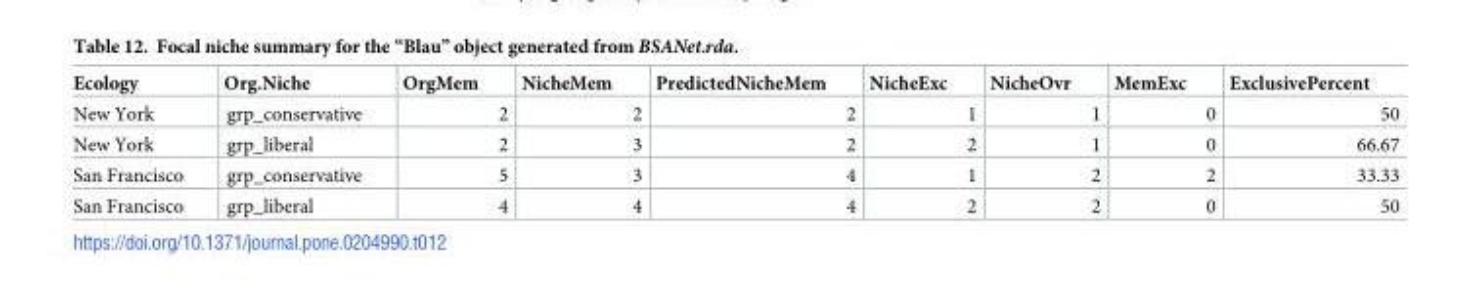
<table><thead><tr><td>Ecology</td><td>Org.Niche</td><td>OrgMem</td><td>NicheMem</td><td>PredictedNicheMem</td><td>NicheExc</td><td>NicheOvr</td><td>MemExc</td><td>ExclusivePercent</td></tr></thead><tbody><tr><td>New York</td><td>grp_conservative</td><td>2</td><td>2</td><td>2</td><td>1</td><td>1</td><td>0</td><td>50</td></tr><tr><td>New York</td><td>grp_liberal</td><td>2</td><td>3</td><td>2</td><td>2</td><td>1</td><td>0</td><td>66.67</td></tr><tr><td>San Francisco</td><td>grp_conservative</td><td>5</td><td>3</td><td>4</td><td>1</td><td>2</td><td>2</td><td>33.33</td></tr><tr><td>San Francisco</td><td>grp_liberal</td><td>4</td><td>4</td><td>4</td><td>2</td><td>2</td><td>0</td><td>50</td></tr></tbody></table>